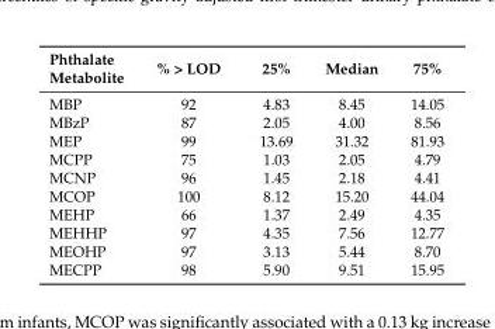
<table><thead><tr><td>Phthalate Metabolite</td><td>% &gt; LOD</td><td>25%</td><td>Median</td><td>75%</td></tr></thead><tbody><tr><td>MBP</td><td>92</td><td>4.83</td><td>8.45</td><td>14.05</td></tr><tr><td>MBzP</td><td>87</td><td>2.05</td><td>4.00</td><td>8.56</td></tr><tr><td>MEP</td><td>99</td><td>13.69</td><td>31.32</td><td>81.93</td></tr><tr><td>MCPP</td><td>75</td><td>1.03</td><td>2.05</td><td>4.79</td></tr><tr><td>MCNP</td><td>96</td><td>1.45</td><td>2.18</td><td>4.41</td></tr><tr><td>MCOP</td><td>100</td><td>8.12</td><td>15.20</td><td>44.04</td></tr><tr><td>MEHP</td><td>66</td><td>1.37</td><td>2.49</td><td>4.35</td></tr><tr><td>MEHHP</td><td>97</td><td>4.35</td><td>7.56</td><td>12.77</td></tr><tr><td>MEOHP</td><td>97</td><td>3.13</td><td>5.44</td><td>8.70</td></tr><tr><td>MECPP</td><td>98</td><td>5.90</td><td>9.51</td><td>15.95</td></tr></tbody></table>